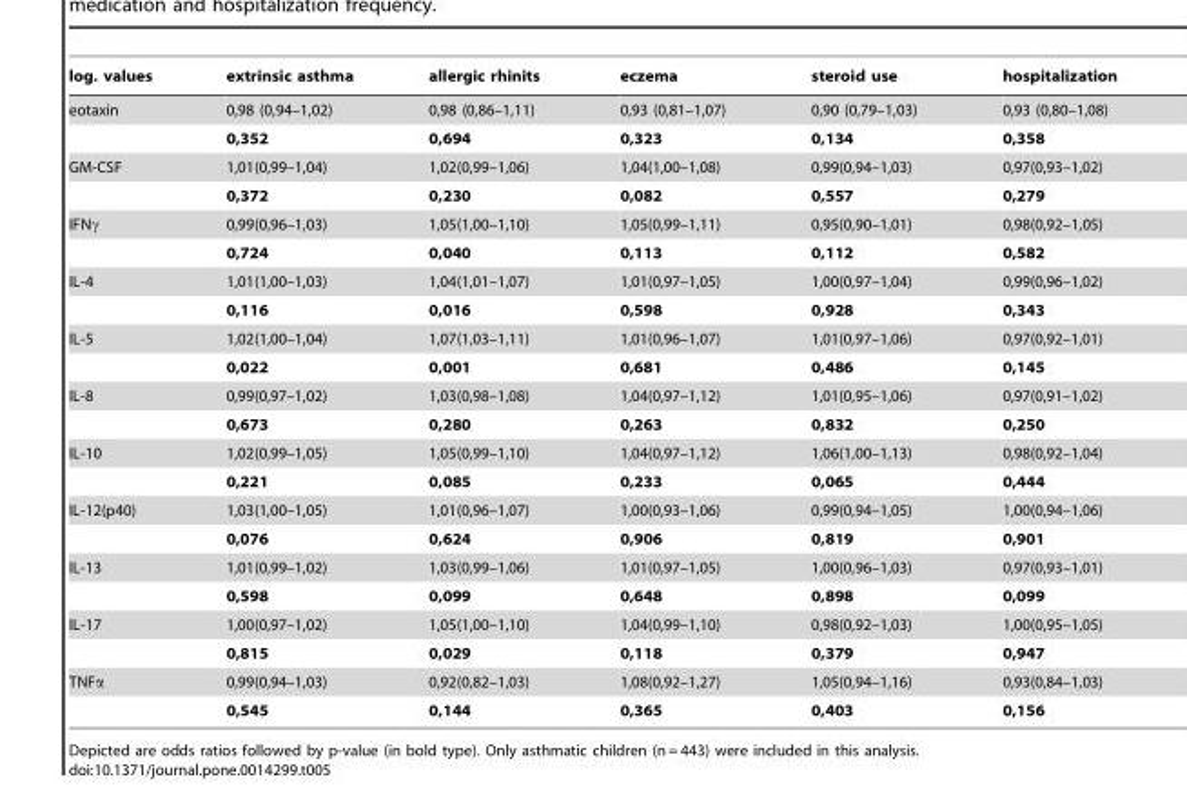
<table><thead><tr><td>log. values</td><td>extrinsic asthma</td><td>allergic rhinits</td><td>eczema</td><td>steroid use</td><td>hospitalization</td></tr></thead><tbody><tr><td rowspan="2">eotaxin</td><td>0,98 (0,94–1,02)</td><td>0,98 (0,86–1,11)</td><td>0,93 (0,81–1,07)</td><td>0,90 (0,79–1,03)</td><td>0,93 (0,80–1,08)</td></tr><tr><td>0,352</td><td>0,694</td><td>0,323</td><td>0,134</td><td>0,358</td></tr><tr><td rowspan="2">GM-CSF</td><td>1,01(0,99–1,04)</td><td>1,02(0,99–1,06)</td><td>1,04(1,00–1,08)</td><td>0,99(0,94–1,03)</td><td>0,97(0,93–1,02)</td></tr><tr><td>0,372</td><td>0,230</td><td>0,082</td><td>0,557</td><td>0,279</td></tr><tr><td rowspan="2">IFNγ</td><td>0,99(0,96–1,03)</td><td>1,05(1,00–1,10)</td><td>1,05(0,99–1,11)</td><td>0,95(0,90–1,01)</td><td>0,98(0,92–1,05)</td></tr><tr><td>0,724</td><td>0,040</td><td>0,113</td><td>0,112</td><td>0,582</td></tr><tr><td rowspan="2">IL-4</td><td>1,01(1,00–1,03)</td><td>1,04(1,01–1,07)</td><td>1,01(0,97–1,05)</td><td>1,00(0,97–1,04)</td><td>0,99(0,96–1,02)</td></tr><tr><td>0,116</td><td>0,016</td><td>0,598</td><td>0,928</td><td>0,343</td></tr><tr><td rowspan="2">IL-5</td><td>1,02(1,00–1,04)</td><td>1,07(1,03–1,11)</td><td>1,01(0,96–1,07)</td><td>1,01(0,97–1,06)</td><td>0,97(0,92–1,01)</td></tr><tr><td>0,022</td><td>0,001</td><td>0,681</td><td>0,486</td><td>0,145</td></tr><tr><td rowspan="2">IL-8</td><td>0,99(0,97–1,02)</td><td>1,03(0,98–1,08)</td><td>1,04(0,97–1,12)</td><td>1,01(0,95–1,06)</td><td>0,97(0,91–1,02)</td></tr><tr><td>0,673</td><td>0,280</td><td>0,263</td><td>0,832</td><td>0,250</td></tr><tr><td rowspan="2">IL-10</td><td>1,02(0,99–1,05)</td><td>1,05(0,99–1,10)</td><td>1,04(0,97–1,12)</td><td>1,06(1,00–1,13)</td><td>0,98(0,92–1,04)</td></tr><tr><td>0,221</td><td>0,085</td><td>0,233</td><td>0,065</td><td>0,444</td></tr><tr><td rowspan="2">IL-12(p40)</td><td>1,03(1,00–1,05)</td><td>1,01(0,96–1,07)</td><td>1,00(0,93–1,06)</td><td>0,99(0,94–1,05)</td><td>1,00(0,94–1,06)</td></tr><tr><td>0,076</td><td>0,624</td><td>0,906</td><td>0,819</td><td>0,901</td></tr><tr><td rowspan="2">IL-13</td><td>1,01(0,99–1,02)</td><td>1,03(0,99–1,06)</td><td>1,01(0,97–1,05)</td><td>1,00(0,96–1,03)</td><td>0,97(0,93–1,01)</td></tr><tr><td>0,598</td><td>0,099</td><td>0,648</td><td>0,898</td><td>0,099</td></tr><tr><td rowspan="2">IL-17</td><td>1,00(0,97–1,02)</td><td>1,05(1,00–1,10)</td><td>1,04(0,99–1,10)</td><td>0,98(0,92–1,03)</td><td>1,00(0,95–1,05)</td></tr><tr><td>0,815</td><td>0,029</td><td>0,118</td><td>0,379</td><td>0,947</td></tr><tr><td rowspan="2">TNFα</td><td>0,99(0,94–1,03)</td><td>0,92(0,82–1,03)</td><td>1,08(0,92–1,27)</td><td>1,05(0,94–1,16)</td><td>0,93(0,84–1,03)</td></tr><tr><td>0,545</td><td>0,144</td><td>0,365</td><td>0,403</td><td>0,156</td></tr></tbody></table>